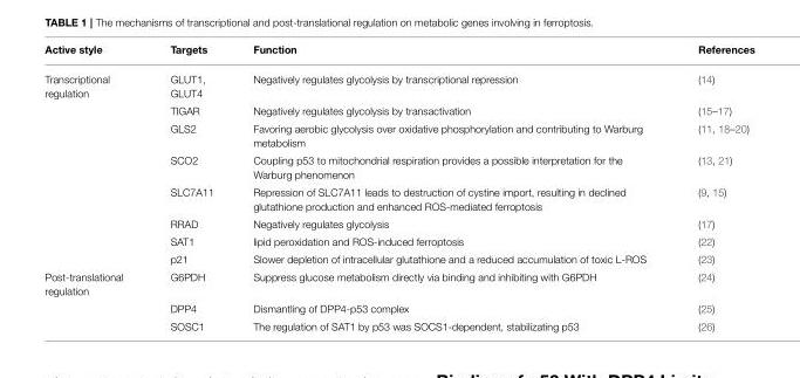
<table><thead><tr><td>Active style</td><td>Targets</td><td>Function</td><td>References</td></tr></thead><tbody><tr><td rowspan="8">Transcriptional regulation</td><td>GLUT1, GLUT4</td><td>Negatively regulates glycolysis by transcriptional repression</td><td>(14)</td></tr><tr><td>TIGAR</td><td>Negatively regulates glycolysis by transactivation</td><td>(15–17)</td></tr><tr><td>GLS2</td><td>Favoring aerobic glycolysis over oxidative phosphorylation and contributing to Warburg metabolism</td><td>(11, 18–20)</td></tr><tr><td>SCO2</td><td>Coupling p53 to mitochondrial respiration provides a possible interpretation for the Warburg phenomenon</td><td>(13, 21)</td></tr><tr><td>SLC7A11</td><td>Repression of SLC7A11 leads to destruction of cystine import, resulting in declined glutathione production and enhanced ROS-mediated ferroptosis</td><td>(9, 15)</td></tr><tr><td>RRAD</td><td>Negatively regulates glycolysis</td><td>(17)</td></tr><tr><td>SAT1</td><td>lipid peroxidation and ROS-induced ferroptosis</td><td>(22)</td></tr><tr><td>p21</td><td>Slower depletion of intracellular glutathione and a reduced accumulation of toxic L-ROS</td><td>(23)</td></tr><tr><td rowspan="3">Post-translational regulation</td><td>G6PDH</td><td>Suppress glucose metabolism directly via binding and inhibiting with G6PDH</td><td>(24)</td></tr><tr><td>DPP4</td><td>Dismantling of DPP4-p53 complex</td><td>(25)</td></tr><tr><td>SOSC1</td><td>The regulation of SAT1 by p53 was SOCS1-dependent, stabilizating p53</td><td>(26)</td></tr></tbody></table>